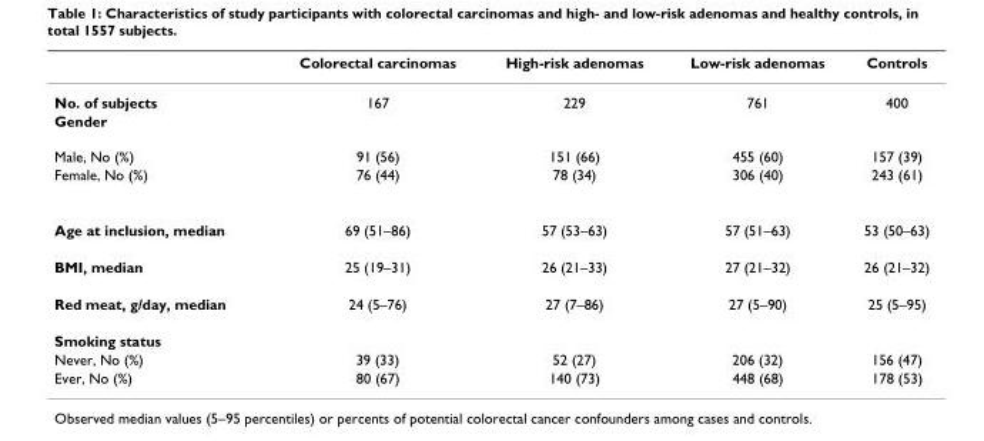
<table><thead><tr><td></td><td>Colorectal carcinomas</td><td>High-risk adenomas</td><td>Low-risk adenomas</td><td>Controls</td></tr></thead><tbody><tr><td>No. of subjects</td><td>167</td><td>229</td><td>761</td><td>400</td></tr><tr><td colspan="5">Gender</td></tr><tr><td>Male, No (%)</td><td>91 (56)</td><td>151 (66)</td><td>455 (60)</td><td>157 (39)</td></tr><tr><td>Female, No (%)</td><td>76 (44)</td><td>78 (34)</td><td>306 (40)</td><td>243 (61)</td></tr><tr><td>Age at inclusion, median</td><td>69 (51–86)</td><td>57 (53–63)</td><td>57 (51–63)</td><td>53 (50–63)</td></tr><tr><td>BMI, median</td><td>25 (19–31)</td><td>26 (21–33)</td><td>27 (21–32)</td><td>26 (21–32)</td></tr><tr><td>Red meat, g/day, median</td><td>24 (5–76)</td><td>27 (7–86)</td><td>27 (5–90)</td><td>25 (5–95)</td></tr><tr><td colspan="5">Smoking status</td></tr><tr><td>Never, No (%)</td><td>39 (33)</td><td>52 (27)</td><td>206 (32)</td><td>156 (47)</td></tr><tr><td>Ever, No (%)</td><td>80 (67)</td><td>140 (73)</td><td>448 (68)</td><td>178 (53)</td></tr></tbody></table>